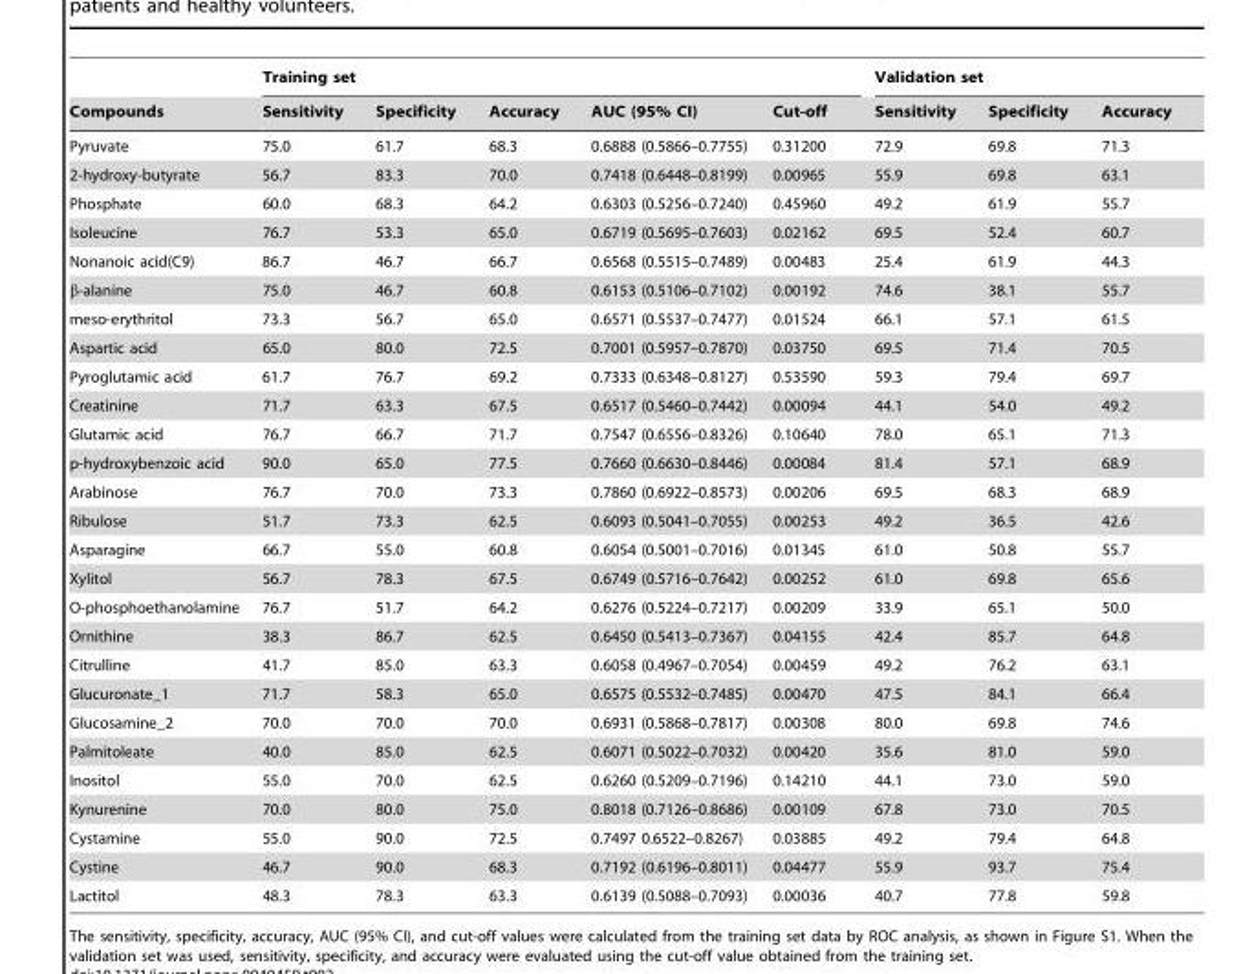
<table><thead><tr><td rowspan="2">Compounds</td><td colspan="5">Training set</td><td colspan="3">Validation set</td></tr><tr><td>Sensitivity</td><td>Specificity</td><td>Accuracy</td><td>AUC (95% CI)</td><td>Cut-off</td><td>Sensitivity</td><td>Specificity</td><td>Accuracy</td></tr></thead><tbody><tr><td>Pyruvate</td><td>75.0</td><td>61.7</td><td>68.3</td><td>0.6888 (0.5866–0.7755)</td><td>0.31200</td><td>72.9</td><td>69.8</td><td>71.3</td></tr><tr><td>2-hydroxy-butyrate</td><td>56.7</td><td>83.3</td><td>70.0</td><td>0.7418 (0.6448–0.8199)</td><td>0.00965</td><td>55.9</td><td>69.8</td><td>63.1</td></tr><tr><td>Phosphate</td><td>60.0</td><td>68.3</td><td>64.2</td><td>0.6303 (0.5256–0.7240)</td><td>0.45960</td><td>49.2</td><td>61.9</td><td>55.7</td></tr><tr><td>Isoleucine</td><td>76.7</td><td>53.3</td><td>65.0</td><td>0.6719 (0.5695–0.7603)</td><td>0.02162</td><td>69.5</td><td>52.4</td><td>60.7</td></tr><tr><td>Nonanoic acid(C9)</td><td>86.7</td><td>46.7</td><td>66.7</td><td>0.6568 (0.5515–0.7489)</td><td>0.00483</td><td>25.4</td><td>61.9</td><td>44.3</td></tr><tr><td>β-alanine</td><td>75.0</td><td>46.7</td><td>60.8</td><td>0.6153 (0.5106–0.7102)</td><td>0.00192</td><td>74.6</td><td>38.1</td><td>55.7</td></tr><tr><td>meso-erythritol</td><td>73.3</td><td>56.7</td><td>65.0</td><td>0.6571 (0.5537–0.7477)</td><td>0.01524</td><td>66.1</td><td>57.1</td><td>61.5</td></tr><tr><td>Aspartic acid</td><td>65.0</td><td>80.0</td><td>72.5</td><td>0.7001 (0.5957–0.7870)</td><td>0.03750</td><td>69.5</td><td>71.4</td><td>70.5</td></tr><tr><td>Pyroglutamic acid</td><td>61.7</td><td>76.7</td><td>69.2</td><td>0.7333 (0.6348–0.8127)</td><td>0.53590</td><td>59.3</td><td>79.4</td><td>69.7</td></tr><tr><td>Creatinine</td><td>71.7</td><td>63.3</td><td>67.5</td><td>0.6517 (0.5460–0.7442)</td><td>0.00094</td><td>44.1</td><td>54.0</td><td>49.2</td></tr><tr><td>Glutamic acid</td><td>76.7</td><td>66.7</td><td>71.7</td><td>0.7547 (0.6556–0.8326)</td><td>0.10640</td><td>78.0</td><td>65.1</td><td>71.3</td></tr><tr><td>p-hydroxybenzoic acid</td><td>90.0</td><td>65.0</td><td>77.5</td><td>0.7660 (0.6630–0.8446)</td><td>0.00084</td><td>81.4</td><td>57.1</td><td>68.9</td></tr><tr><td>Arabinose</td><td>76.7</td><td>70.0</td><td>73.3</td><td>0.7860 (0.6922–0.8573)</td><td>0.00206</td><td>69.5</td><td>68.3</td><td>68.9</td></tr><tr><td>Ribulose</td><td>51.7</td><td>73.3</td><td>62.5</td><td>0.6093 (0.5041–0.7055)</td><td>0.00253</td><td>49.2</td><td>36.5</td><td>42.6</td></tr><tr><td>Asparagine</td><td>66.7</td><td>55.0</td><td>60.8</td><td>0.6054 (0.5001–0.7016)</td><td>0.01345</td><td>61.0</td><td>50.8</td><td>55.7</td></tr><tr><td>Xylitol</td><td>56.7</td><td>78.3</td><td>67.5</td><td>0.6749 (0.5716–0.7642)</td><td>0.00252</td><td>61.0</td><td>69.8</td><td>65.6</td></tr><tr><td>O-phosphoethanolamine</td><td>76.7</td><td>51.7</td><td>64.2</td><td>0.6276 (0.5224–0.7217)</td><td>0.00209</td><td>33.9</td><td>65.1</td><td>50.0</td></tr><tr><td>Ornithine</td><td>38.3</td><td>86.7</td><td>62.5</td><td>0.6450 (0.5413–0.7367)</td><td>0.04155</td><td>42.4</td><td>85.7</td><td>64.8</td></tr><tr><td>Citrulline</td><td>41.7</td><td>85.0</td><td>63.3</td><td>0.6058 (0.4967–0.7054)</td><td>0.00459</td><td>49.2</td><td>76.2</td><td>63.1</td></tr><tr><td>Glucuronate_1</td><td>71.7</td><td>58.3</td><td>65.0</td><td>0.6575 (0.5532–0.7485)</td><td>0.00470</td><td>47.5</td><td>84.1</td><td>66.4</td></tr><tr><td>Glucosamine_2</td><td>70.0</td><td>70.0</td><td>70.0</td><td>0.6931 (0.5868–0.7817)</td><td>0.00308</td><td>80.0</td><td>69.8</td><td>74.6</td></tr><tr><td>Palmitoleate</td><td>40.0</td><td>85.0</td><td>62.5</td><td>0.6071 (0.5022–0.7032)</td><td>0.00420</td><td>35.6</td><td>81.0</td><td>59.0</td></tr><tr><td>Inositol</td><td>55.0</td><td>70.0</td><td>62.5</td><td>0.6260 (0.5209–0.7196)</td><td>0.14210</td><td>44.1</td><td>73.0</td><td>59.0</td></tr><tr><td>Kynurenine</td><td>70.0</td><td>80.0</td><td>75.0</td><td>0.8018 (0.7126–0.8686)</td><td>0.00109</td><td>67.8</td><td>73.0</td><td>70.5</td></tr><tr><td>Cystamine</td><td>55.0</td><td>90.0</td><td>72.5</td><td>0.7497 0.6522–0.8267)</td><td>0.03885</td><td>49.2</td><td>79.4</td><td>64.8</td></tr><tr><td>Cystine</td><td>46.7</td><td>90.0</td><td>68.3</td><td>0.7192 (0.6196–0.8011)</td><td>0.04477</td><td>55.9</td><td>93.7</td><td>75.4</td></tr><tr><td>Lactitol</td><td>48.3</td><td>78.3</td><td>63.3</td><td>0.6139 (0.5088–0.7093)</td><td>0.00036</td><td>40.7</td><td>77.8</td><td>59.8</td></tr></tbody></table>